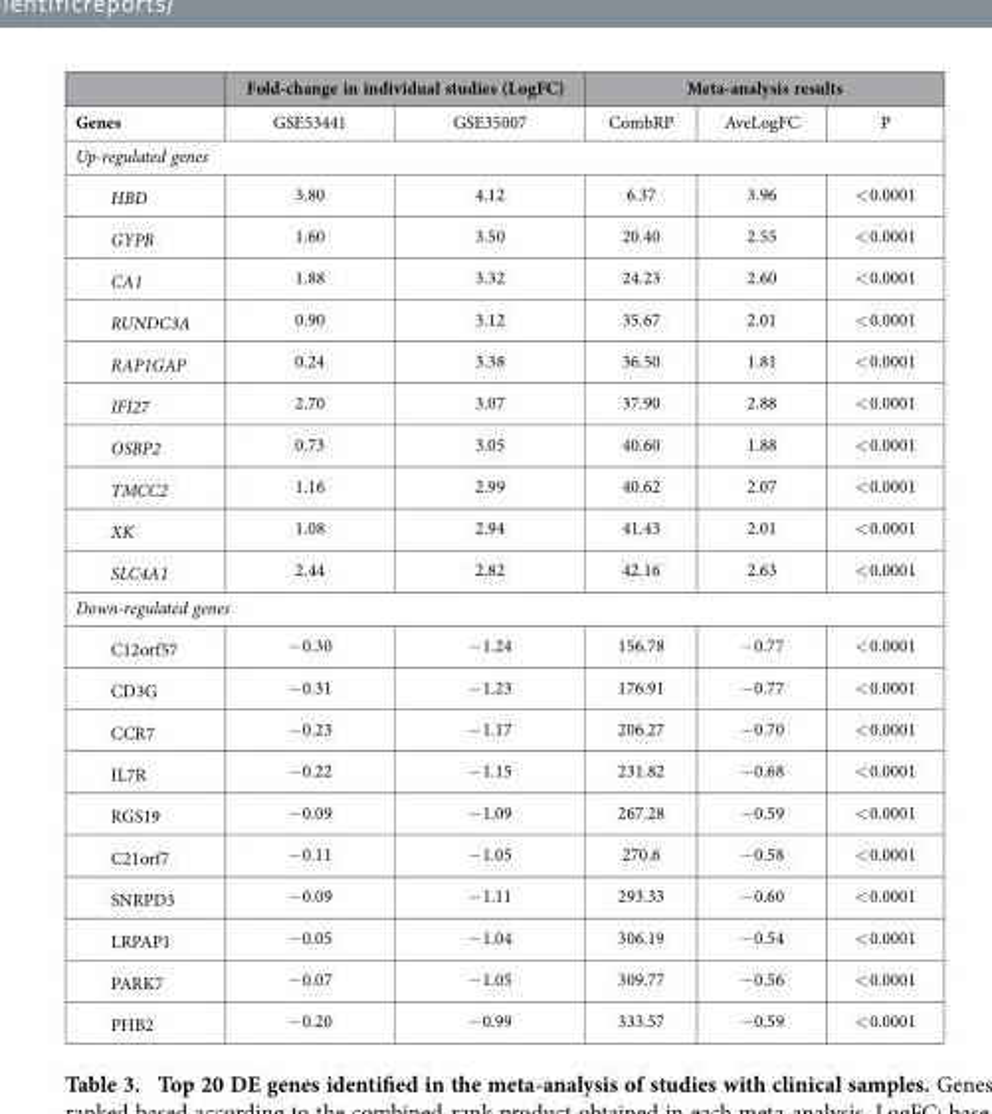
<table><thead><tr><td rowspan="2">Genes</td><td colspan="2">Fold-change in individual studies (LogFC)</td><td colspan="3">Meta-analysis results</td></tr><tr><td>GSE53441</td><td>GSE35007</td><td>CombRP</td><td>AveLogFC</td><td>P</td></tr></thead><tbody><tr><td colspan="6">Up-regulated genes</td></tr><tr><td>HBD</td><td>3.80</td><td>4.12</td><td>6.37</td><td>3.96</td><td>&lt; 0.0001</td></tr><tr><td>GYPB</td><td>1.60</td><td>3.50</td><td>20.40</td><td>2.55</td><td>&lt; 0.0001</td></tr><tr><td>CA1</td><td>1.88</td><td>3.32</td><td>24.23</td><td>2.60</td><td>&lt; 0.0001</td></tr><tr><td>RUNDC3A</td><td>0.90</td><td>3.12</td><td>35.67</td><td>2.01</td><td>&lt; 0.0001</td></tr><tr><td>RAP1GAP</td><td>0.24</td><td>3.38</td><td>36.50</td><td>1.81</td><td>&lt; 0.0001</td></tr><tr><td>IFI27</td><td>2.70</td><td>3.07</td><td>37.90</td><td>2.88</td><td>&lt; 0.0001</td></tr><tr><td>OSBP2</td><td>0.73</td><td>3.05</td><td>40.60</td><td>1.88</td><td>&lt; 0.0001</td></tr><tr><td>TMCC2</td><td>1.16</td><td>2.99</td><td>40.62</td><td>2.07</td><td>&lt; 0.0001</td></tr><tr><td>XK</td><td>1.08</td><td>2.94</td><td>41.43</td><td>2.01</td><td>&lt; 0.0001</td></tr><tr><td>SLC4A1</td><td>2.44</td><td>2.82</td><td>42.16</td><td>2.63</td><td>&lt; 0.0001</td></tr><tr><td colspan="6">Down-regulated genes</td></tr><tr><td>C12orf57</td><td>− 0.30</td><td>− 1.24</td><td>156.78</td><td>− 0.77</td><td>&lt; 0.0001</td></tr><tr><td>CD3G</td><td>− 0.31</td><td>− 1.23</td><td>176.91</td><td>− 0.77</td><td>&lt; 0.0001</td></tr><tr><td>CCR7</td><td>− 0.23</td><td>− 1.17</td><td>206.27</td><td>− 0.70</td><td>&lt; 0.0001</td></tr><tr><td>IL7R</td><td>− 0.22</td><td>− 1.15</td><td>231.82</td><td>− 0.68</td><td>&lt; 0.0001</td></tr><tr><td>RGS19</td><td>− 0.09</td><td>− 1.09</td><td>267.28</td><td>− 0.59</td><td>&lt; 0.0001</td></tr><tr><td>C21orf7</td><td>− 0.11</td><td>− 1.05</td><td>270.6</td><td>− 0.58</td><td>&lt; 0.0001</td></tr><tr><td>SNRPD3</td><td>− 0.09</td><td>− 1.11</td><td>293.33</td><td>− 0.60</td><td>&lt; 0.0001</td></tr><tr><td>LRPAP1</td><td>− 0.05</td><td>− 1.04</td><td>306.19</td><td>− 0.54</td><td>&lt; 0.0001</td></tr><tr><td>PARK7</td><td>− 0.07</td><td>− 1.05</td><td>309.77</td><td>− 0.56</td><td>&lt; 0.0001</td></tr><tr><td>PHB2</td><td>− 0.20</td><td>− 0.99</td><td>333.57</td><td>− 0.59</td><td>&lt; 0.0001</td></tr></tbody></table>